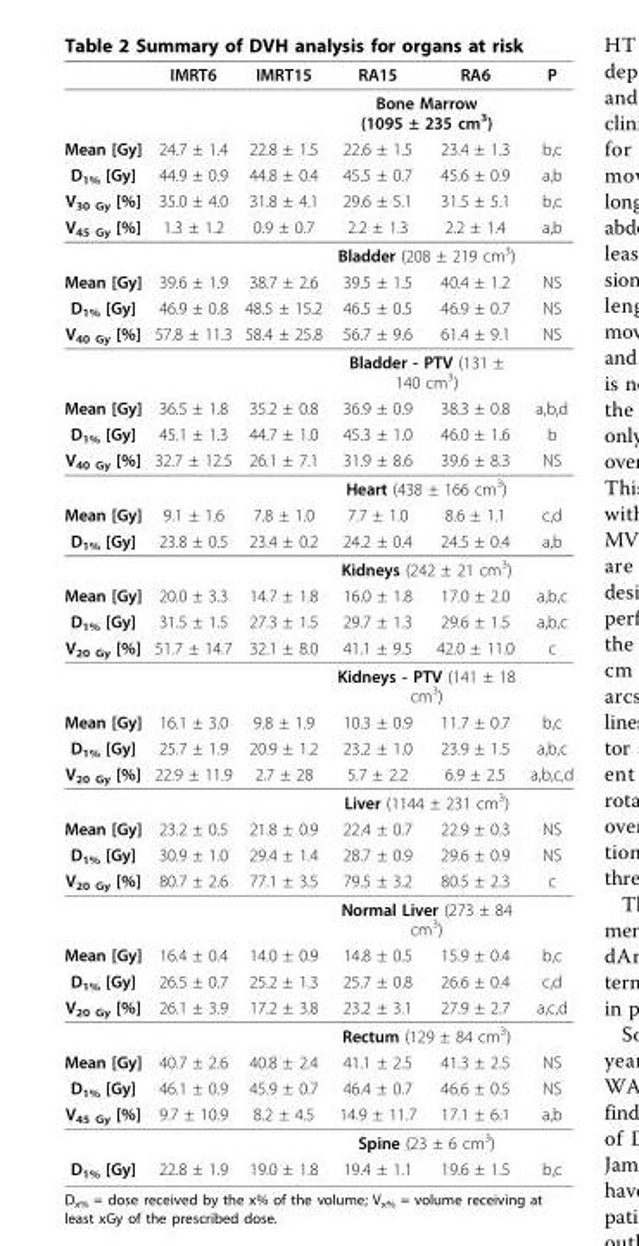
<table><thead><tr><td></td><td>IMRT6</td><td>IMRT15</td><td>RA15</td><td>RA6</td><td>P</td></tr></thead><tbody><tr><td></td><td></td><td></td><td colspan="2">Bone Marrow (1095 ± 235 cm<sup>3</sup>)</td><td></td></tr><tr><td>Mean [Gy]</td><td>24.7 ± 1.4</td><td>22.8 ± 1.5</td><td>22.6 ± 1.5</td><td>23.4 ± 1.3</td><td>b,c</td></tr><tr><td>D<sub>1%</sub> [Gy]</td><td>44.9 ± 0.9</td><td>44.8 ± 0.4</td><td>45.5 ± 0.7</td><td>45.6 ± 0.9</td><td>a,b</td></tr><tr><td>V<sub>30 Gy</sub> [%]</td><td>35.0 ± 4.0</td><td>31.8 ± 4.1</td><td>29.6 ± 5.1</td><td>31.5 ± 5.1</td><td>b,c</td></tr><tr><td rowspan="2">V<sub>45 Gy</sub> [%]</td><td>1.3 ± 1.2</td><td>0.9 ± 0.7</td><td>2.2 ± 1.3</td><td>2.2 ± 1.4</td><td>a,b</td></tr><tr><td></td><td></td><td colspan="2">Bladder (208 ± 219 cm<sup>3</sup>)</td><td></td></tr><tr><td>Mean [Gy]</td><td>39.6 ± 1.9</td><td>38.7 ± 2.6</td><td>39.5 ± 1.5</td><td>40.4 ± 1.2</td><td>NS</td></tr><tr><td>D<sub>1%</sub> [Gy]</td><td>46.9 ± 0.8</td><td>48.5 ± 15.2</td><td>46.5 ± 0.5</td><td>46.9 ± 0.7</td><td>NS</td></tr><tr><td rowspan="2">V<sub>40 Gy</sub> [%]</td><td>57.8 ± 11.3</td><td>58.4 ± 25.8</td><td>56.7 ± 9.6</td><td>61.4 ± 9.1</td><td>NS</td></tr><tr><td></td><td></td><td colspan="2">Bladder - PTV (131 ± 140 cm<sup>3</sup>)</td><td></td></tr><tr><td>Mean [Gy]</td><td>36.5 ± 1.8</td><td>35.2 ± 0.8</td><td>36.9 ± 0.9</td><td>38.3 ± 0.8</td><td>a,b,d</td></tr><tr><td>D<sub>1%</sub> [Gy]</td><td>45.1 ± 1.3</td><td>44.7 ± 1.0</td><td>45.3 ± 1.0</td><td>46.0 ± 1.6</td><td>b</td></tr><tr><td rowspan="2">V<sub>40 Gy</sub> [%]</td><td>32.7 ± 12.5</td><td>26.1 ± 7.1</td><td>31.9 ± 8.6</td><td>39.6 ± 8.3</td><td>NS</td></tr><tr><td></td><td></td><td colspan="2">Heart (438 ± 166 cm<sup>3</sup>)</td><td></td></tr><tr><td>Mean [Gy]</td><td>9.1 ± 1.6</td><td>7.8 ± 1.0</td><td>7.7 ± 1.0</td><td>8.6 ± 1.1</td><td>c,d</td></tr><tr><td rowspan="2">D<sub>1%</sub> [Gy]</td><td>23.8 ± 0.5</td><td>23.4 ± 0.2</td><td>24.2 ± 0.4</td><td>24.5 ± 0.4</td><td>a,b</td></tr><tr><td></td><td></td><td colspan="2">Kidneys (242 ± 21 cm<sup>3</sup>)</td><td></td></tr><tr><td>Mean [Gy]</td><td>20.0 ± 3.3</td><td>14.7 ± 1.8</td><td>16.0 ± 1.8</td><td>17.0 ± 2.0</td><td>a,b,c</td></tr><tr><td>D<sub>1%</sub> [Gy]</td><td>31.5 ± 1.5</td><td>27.3 ± 1.5</td><td>29.7 ± 1.3</td><td>29.6 ± 1.5</td><td>a,b,c</td></tr><tr><td rowspan="2">V<sub>20 Gy</sub> [%]</td><td>51.7 ± 14.7</td><td>32.1 ± 8.0</td><td>41.1 ± 9.5</td><td>42.0 ± 11.0</td><td>c</td></tr><tr><td></td><td></td><td colspan="2">Kidneys - PTV (141 ± 18 cm<sup>3</sup>)</td><td></td></tr><tr><td>Mean [Gy]</td><td>16.1 ± 3.0</td><td>9.8 ± 1.9</td><td>10.3 ± 0.9</td><td>11.7 ± 0.7</td><td>b,c</td></tr><tr><td>D<sub>1%</sub> [Gy]</td><td>25.7 ± 1.9</td><td>20.9 ± 1.2</td><td>23.2 ± 1.0</td><td>23.9 ± 1.5</td><td>a,b,c</td></tr><tr><td rowspan="2">V<sub>20 Gy</sub> [%]</td><td>22.9 ± 11.9</td><td>2.7 ± 28</td><td>5.7 ± 2.2</td><td>6.9 ± 2.5</td><td>a,b,c,d</td></tr><tr><td></td><td></td><td colspan="2">Liver (1144 ± 231 cm<sup>3</sup>)</td><td></td></tr><tr><td>Mean [Gy]</td><td>23.2 ± 0.5</td><td>21.8 ± 0.9</td><td>22.4 ± 0.7</td><td>22.9 ± 0.3</td><td>NS</td></tr><tr><td>D<sub>1%</sub> [Gy]</td><td>30.9 ± 1.0</td><td>29.4 ± 1.4</td><td>28.7 ± 0.9</td><td>29.6 ± 0.9</td><td>NS</td></tr><tr><td rowspan="2">V<sub>20 Gy</sub> [%]</td><td>80.7 ± 2.6</td><td>77.1 ± 3.5</td><td>79.5 ± 3.2</td><td>80.5 ± 2.3</td><td>c</td></tr><tr><td></td><td></td><td colspan="2">Normal Liver (273 ± 84 cm<sup>3</sup>)</td><td></td></tr><tr><td>Mean [Gy]</td><td>16.4 ± 0.4</td><td>14.0 ± 0.9</td><td>14.8 ± 0.5</td><td>15.9 ± 0.4</td><td>b,c</td></tr><tr><td>D<sub>1%</sub> [Gy]</td><td>26.5 ± 0.7</td><td>25.2 ± 1.3</td><td>25.7 ± 0.8</td><td>26.6 ± 0.4</td><td>c,d</td></tr><tr><td rowspan="2">V<sub>20 Gy</sub> [%]</td><td>26.1 ± 3.9</td><td>17.2 ± 3.8</td><td>23.2 ± 3.1</td><td>27.9 ± 2.7</td><td>a,c,d</td></tr><tr><td></td><td></td><td colspan="2">Rectum (129 ± 84 cm<sup>3</sup>)</td><td></td></tr><tr><td>Mean [Gy]</td><td>40.7 ± 2.6</td><td>40.8 ± 2.4</td><td>41.1 ± 2.5</td><td>41.3 ± 2.5</td><td>NS</td></tr><tr><td>D<sub>1%</sub> [Gy]</td><td>46.1 ± 0.9</td><td>45.9 ± 0.7</td><td>46.4 ± 0.7</td><td>46.6 ± 0.5</td><td>NS</td></tr><tr><td rowspan="2">V<sub>45 Gy</sub> [%]</td><td>9.7 ± 10.9</td><td>8.2 ± 4.5</td><td>14.9 ± 11.7</td><td>17.1 ± 6.1</td><td>a,b</td></tr><tr><td></td><td></td><td colspan="2">Spine (23 ± 6 cm<sup>3</sup>)</td><td></td></tr><tr><td>D<sub>1%</sub> [Gy]</td><td>22.8 ± 1.9</td><td>19.0 ± 1.8</td><td>19.4 ± 1.1</td><td>19.6 ± 1.5</td><td>b,c</td></tr></tbody></table>